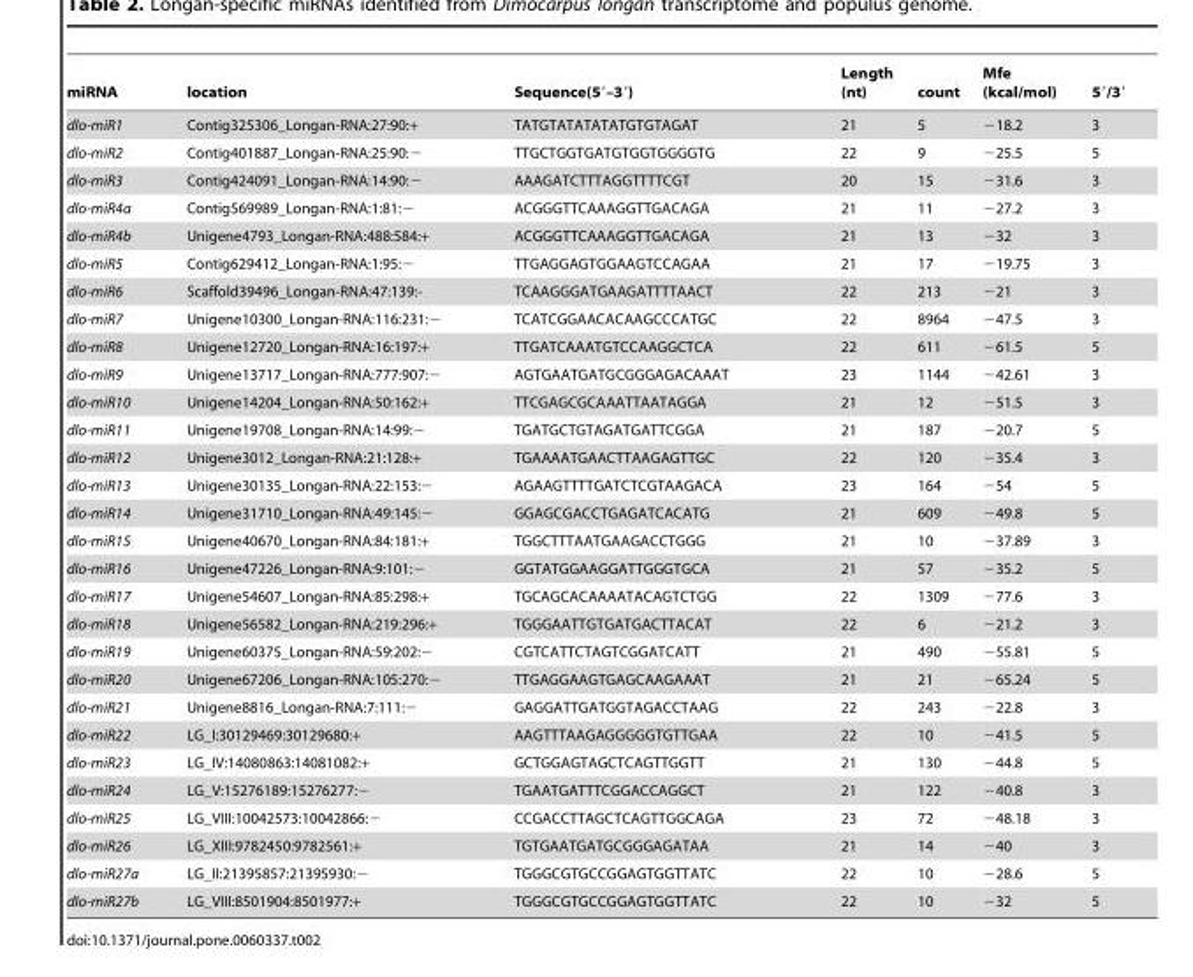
<table><thead><tr><td>miRNA</td><td>location</td><td>Sequence(5′–3′)</td><td>Length (nt)</td><td>count</td><td>Mfe (kcal/mol)</td><td>5′/3′</td></tr></thead><tbody><tr><td>dlo-miR1</td><td>Contig325306_Longan-RNA:27:90:+</td><td>TATGTATATATATGTGTAGAT</td><td>21</td><td>5</td><td>−18.2</td><td>3</td></tr><tr><td>dlo-miR2</td><td>Contig401887_Longan-RNA:25:90:−</td><td>TTGCTGGTGATGTGGTGGGGTG</td><td>22</td><td>9</td><td>−25.5</td><td>5</td></tr><tr><td>dlo-miR3</td><td>Contig424091_Longan-RNA:14:90:−</td><td>AAAGATCTTTAGGTTTTCGT</td><td>20</td><td>15</td><td>−31.6</td><td>3</td></tr><tr><td>dlo-miR4a</td><td>Contig569989_Longan-RNA:1:81:−</td><td>ACGGGTTCAAAGGTTGACAGA</td><td>21</td><td>11</td><td>−27.2</td><td>3</td></tr><tr><td>dlo-miR4b</td><td>Unigene4793_Longan-RNA:488:584:+</td><td>ACGGGTTCAAAGGTTGACAGA</td><td>21</td><td>13</td><td>−32</td><td>3</td></tr><tr><td>dlo-miR5</td><td>Contig629412_Longan-RNA:1:95:−</td><td>TTGAGGAGTGGAAGTCCAGAA</td><td>21</td><td>17</td><td>−19.75</td><td>3</td></tr><tr><td>dlo-miR6</td><td>Scaffold39496_Longan-RNA:47:139:-</td><td>TCAAGGGATGAAGATTTTAACT</td><td>22</td><td>213</td><td>−21</td><td>3</td></tr><tr><td>dlo-miR7</td><td>Unigene10300_Longan-RNA:116:231:−</td><td>TCATCGGAACACAAGCCCATGC</td><td>22</td><td>8964</td><td>−47.5</td><td>3</td></tr><tr><td>dlo-miR8</td><td>Unigene12720_Longan-RNA:16:197:+</td><td>TTGATCAAATGTCCAAGGCTCA</td><td>22</td><td>611</td><td>−61.5</td><td>5</td></tr><tr><td>dlo-miR9</td><td>Unigene13717_Longan-RNA:777:907:−</td><td>AGTGAATGATGCGGGAGACAAAT</td><td>23</td><td>1144</td><td>−42.61</td><td>3</td></tr><tr><td>dlo-miR10</td><td>Unigene14204_Longan-RNA:50:162:+</td><td>TTCGAGCGCAAATTAATAGGA</td><td>21</td><td>12</td><td>−51.5</td><td>3</td></tr><tr><td>dlo-miR11</td><td>Unigene19708_Longan-RNA:14:99:−</td><td>TGATGCTGTAGATGATTCGGA</td><td>21</td><td>187</td><td>−20.7</td><td>5</td></tr><tr><td>dlo-miR12</td><td>Unigene3012_Longan-RNA:21:128:+</td><td>TGAAAATGAACTTAAGAGTTGC</td><td>22</td><td>120</td><td>−35.4</td><td>3</td></tr><tr><td>dlo-miR13</td><td>Unigene30135_Longan-RNA:22:153:−</td><td>AGAAGTTTTGATCTCGTAAGACA</td><td>23</td><td>164</td><td>−54</td><td>5</td></tr><tr><td>dlo-miR14</td><td>Unigene31710_Longan-RNA:49:145:−</td><td>GGAGCGACCTGAGATCACATG</td><td>21</td><td>609</td><td>−49.8</td><td>5</td></tr><tr><td>dlo-miR15</td><td>Unigene40670_Longan-RNA:84:181:+</td><td>TGGCTTTAATGAAGACCTGGG</td><td>21</td><td>10</td><td>−37.89</td><td>3</td></tr><tr><td>dlo-miR16</td><td>Unigene47226_Longan-RNA:9:101:−</td><td>GGTATGGAAGGATTGGGTGCA</td><td>21</td><td>57</td><td>−35.2</td><td>5</td></tr><tr><td>dlo-miR17</td><td>Unigene54607_Longan-RNA:85:298:+</td><td>TGCAGCACAAAATACAGTCTGG</td><td>22</td><td>1309</td><td>−77.6</td><td>3</td></tr><tr><td>dlo-miR18</td><td>Unigene56582_Longan-RNA:219:296:+</td><td>TGGGAATTGTGATGACTTACAT</td><td>22</td><td>6</td><td>−21.2</td><td>3</td></tr><tr><td>dlo-miR19</td><td>Unigene60375_Longan-RNA:59:202:−</td><td>CGTCATTCTAGTCGGATCATT</td><td>21</td><td>490</td><td>−55.81</td><td>5</td></tr><tr><td>dlo-miR20</td><td>Unigene67206_Longan-RNA:105:270:−</td><td>TTGAGGAAGTGAGCAAGAAAT</td><td>21</td><td>21</td><td>−65.24</td><td>5</td></tr><tr><td>dlo-miR21</td><td>Unigene8816_Longan-RNA:7:111:−</td><td>GAGGATTGATGGTAGACCTAAG</td><td>22</td><td>243</td><td>−22.8</td><td>3</td></tr><tr><td>dlo-miR22</td><td>LG_I:30129469:30129680:+</td><td>AAGTTTAAGAGGGGGTGTTGAA</td><td>22</td><td>10</td><td>−41.5</td><td>5</td></tr><tr><td>dlo-miR23</td><td>LG_IV:14080863:14081082:+</td><td>GCTGGAGTAGCTCAGTTGGTT</td><td>21</td><td>130</td><td>−44.8</td><td>5</td></tr><tr><td>dlo-miR24</td><td>LG_V:15276189:15276277:−</td><td>TGAATGATTTCGGACCAGGCT</td><td>21</td><td>122</td><td>−40.8</td><td>3</td></tr><tr><td>dlo-miR25</td><td>LG_VIII:10042573:10042866:−</td><td>CCGACCTTAGCTCAGTTGGCAGA</td><td>23</td><td>72</td><td>−48.18</td><td>3</td></tr><tr><td>dlo-miR26</td><td>LG_XIII:9782450:9782561:+</td><td>TGTGAATGATGCGGGAGATAA</td><td>21</td><td>14</td><td>−40</td><td>3</td></tr><tr><td>dlo-miR27a</td><td>LG_II:21395857:21395930:−</td><td>TGGGCGTGCCGGAGTGGTTATC</td><td>22</td><td>10</td><td>−28.6</td><td>5</td></tr><tr><td>dlo-miR27b</td><td>LG_VIII:8501904:8501977:+</td><td>TGGGCGTGCCGGAGTGGTTATC</td><td>22</td><td>10</td><td>−32</td><td>5</td></tr></tbody></table>